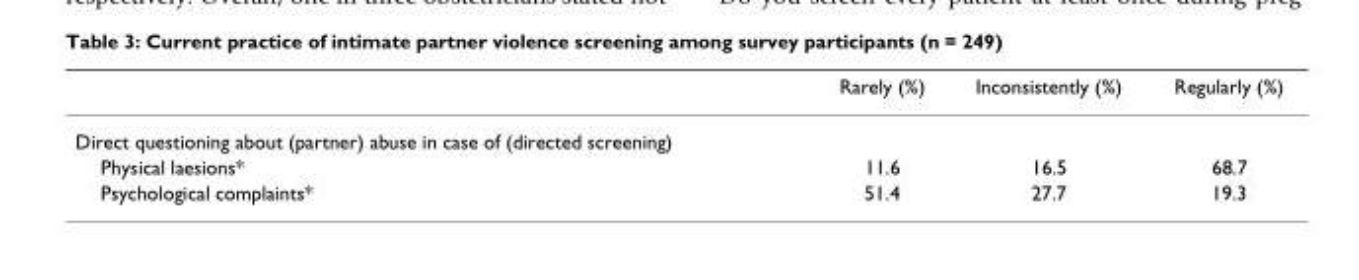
<table><thead><tr><td></td><td>Rarely (%)</td><td>Inconsistently (%)</td><td>Regularly (%)</td></tr></thead><tbody><tr><td colspan="4">Direct questioning about (partner) abuse in case of (directed screening)</td></tr><tr><td>Physical laesions*</td><td>11.6</td><td>16.5</td><td>68.7</td></tr><tr><td>Psychological complaints*</td><td>51.4</td><td>27.7</td><td>19.3</td></tr></tbody></table>